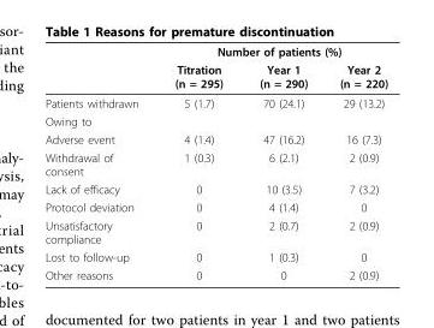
<table><thead><tr><td rowspan="2"></td><td colspan="3">Number of patients (%)</td></tr><tr><td>Titration (n = 295)</td><td>Year 1 (n = 290)</td><td>Year 2 (n = 220)</td></tr></thead><tbody><tr><td>Patients withdrawn</td><td>5 (1.7)</td><td>70 (24.1)</td><td>29 (13.2)</td></tr><tr><td colspan="4">Owing to</td></tr><tr><td>Adverse event</td><td>4 (1.4)</td><td>47 (16.2)</td><td>16 (7.3)</td></tr><tr><td>Withdrawal of consent</td><td>1 (0.3)</td><td>6 (2.1)</td><td>2 (0.9)</td></tr><tr><td>Lack of efficacy</td><td>0</td><td>10 (3.5)</td><td>7 (3.2)</td></tr><tr><td>Protocol deviation</td><td>0</td><td>4 (1.4)</td><td>0</td></tr><tr><td>Unsatisfactory compliance</td><td>0</td><td>2 (0.7)</td><td>2 (0.9)</td></tr><tr><td>Lost to follow-up</td><td>0</td><td>1 (0.3)</td><td>0</td></tr><tr><td>Other reasons</td><td>0</td><td>0</td><td>2 (0.9)</td></tr></tbody></table>